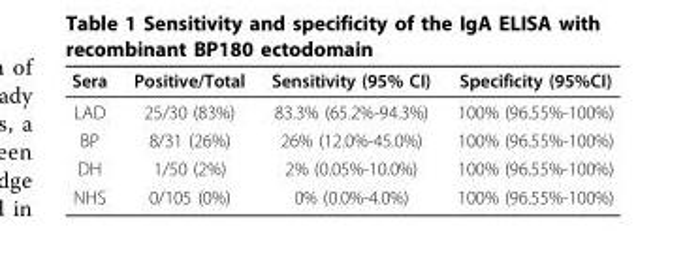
<table><thead><tr><td>Sera</td><td>Positive/Total</td><td>Sensitivity (95% CI)</td><td>Specificity (95%CI)</td></tr></thead><tbody><tr><td>LAD</td><td>25/30 (83%)</td><td>83.3% (65.2%-94.3%)</td><td>100% (96.55%-100%)</td></tr><tr><td>BP</td><td>8/31 (26%)</td><td>26% (12.0%-45.0%)</td><td>100% (96.55%-100%)</td></tr><tr><td>DH</td><td>1/50 (2%)</td><td>2% (0.05%-10.0%)</td><td>100% (96.55%-100%)</td></tr><tr><td>NHS</td><td>0/105 (0%)</td><td>0% (0.0%-4.0%)</td><td>100% (96.55%-100%)</td></tr></tbody></table>